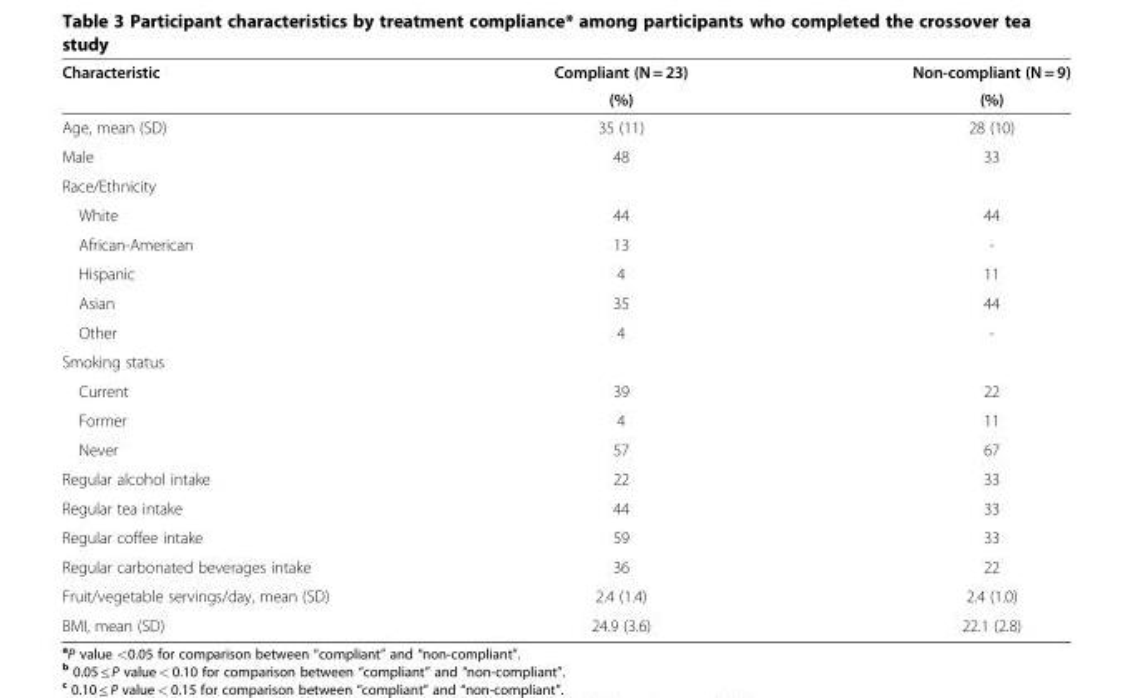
<table><thead><tr><td rowspan="2">Characteristic</td><td rowspan="2">Compliant (N = 23) (%)</td><td rowspan="2">Non-compliant (N = 9) (%)</td></tr><tr></tr></thead><tbody><tr><td>Age, mean (SD)</td><td>35 (11)</td><td>28 (10)</td></tr><tr><td>Male</td><td>48</td><td>33</td></tr><tr><td colspan="3">Race/Ethnicity</td></tr><tr><td>White</td><td>44</td><td>44</td></tr><tr><td>African-American</td><td>13</td><td>-</td></tr><tr><td>Hispanic</td><td>4</td><td>11</td></tr><tr><td>Asian</td><td>35</td><td>44</td></tr><tr><td>Other</td><td>4</td><td>-</td></tr><tr><td colspan="3">Smoking status</td></tr><tr><td>Current</td><td>39</td><td>22</td></tr><tr><td>Former</td><td>4</td><td>11</td></tr><tr><td>Never</td><td>57</td><td>67</td></tr><tr><td>Regular alcohol intake</td><td>22</td><td>33</td></tr><tr><td>Regular tea intake</td><td>44</td><td>33</td></tr><tr><td>Regular coffee intake</td><td>59</td><td>33</td></tr><tr><td>Regular carbonated beverages intake</td><td>36</td><td>22</td></tr><tr><td>Fruit/vegetable servings/day, mean (SD)</td><td>2.4 (1.4)</td><td>2.4 (1.0)</td></tr><tr><td>BMI, mean (SD)</td><td>24.9 (3.6)</td><td>22.1 (2.8)</td></tr></tbody></table>